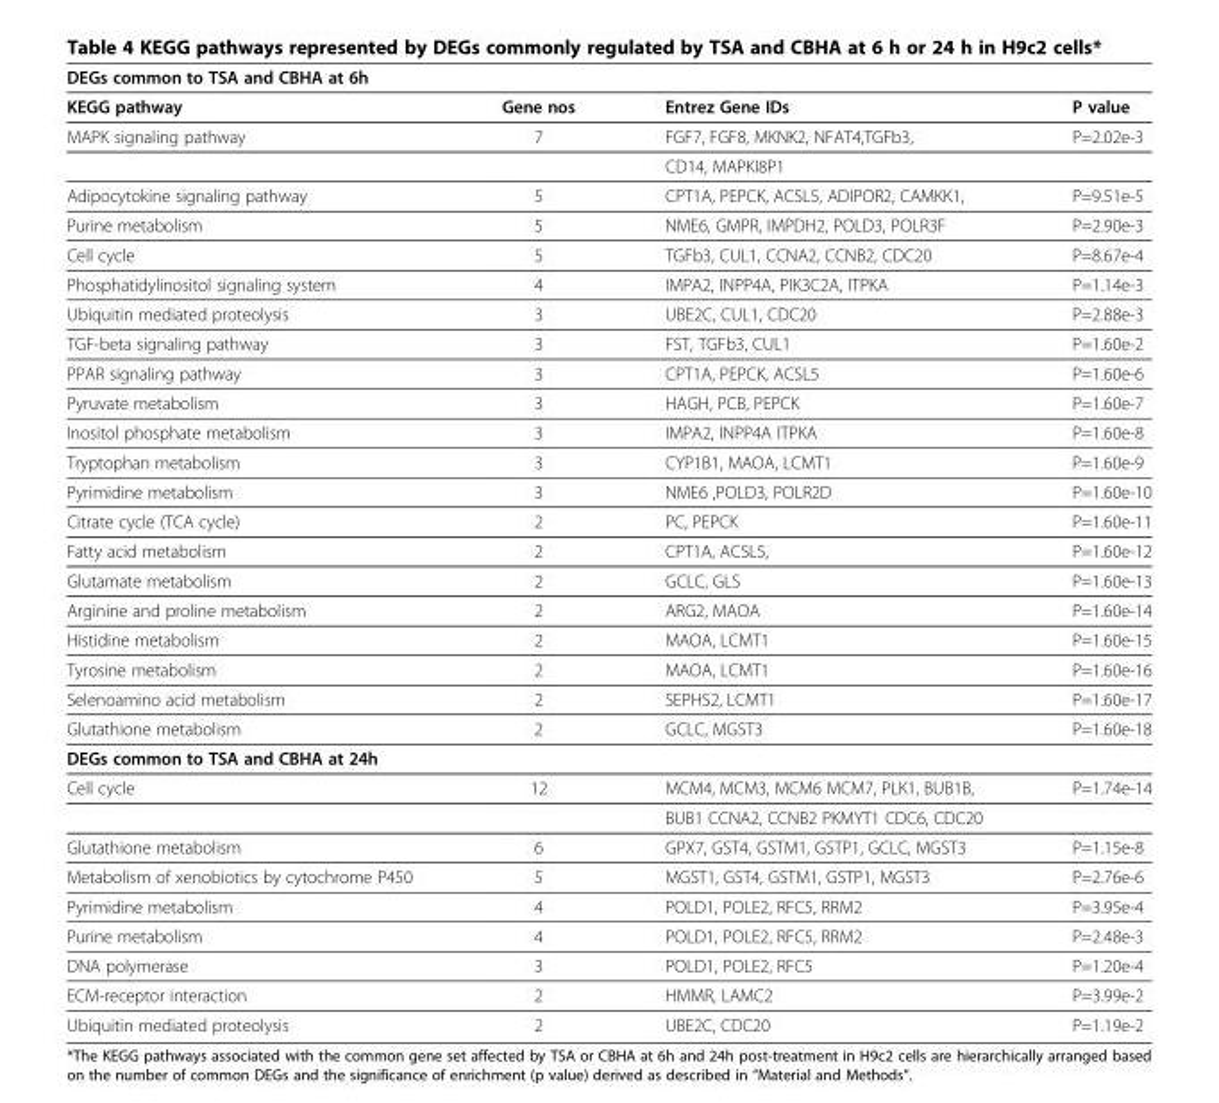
<table><thead><tr><td colspan="4">DEGs common to TSA and CBHA at 6h</td></tr><tr><td>KEGG pathway</td><td>Gene nos</td><td>Entrez Gene IDs</td><td>P value</td></tr></thead><tbody><tr><td rowspan="2">MAPK signaling pathway</td><td>7</td><td>FGF7, FGF8, MKNK2, NFAT4,TGFb3,</td><td>P=2.02e-3</td></tr><tr><td></td><td>CD14, MAPKI8P1</td><td></td></tr><tr><td>Adipocytokine signaling pathway</td><td>5</td><td>CPT1A, PEPCK, ACSL5, ADIPOR2, CAMKK1,</td><td>P=9.51e-5</td></tr><tr><td>Purine metabolism</td><td>5</td><td>NME6, GMPR, IMPDH2, POLD3, POLR3F</td><td>P=2.90e-3</td></tr><tr><td>Cell cycle</td><td>5</td><td>TGFb3, CUL1, CCNA2, CCNB2, CDC20</td><td>P=8.67e-4</td></tr><tr><td>Phosphatidylinositol signaling system</td><td>4</td><td>IMPA2, INPP4A, PIK3C2A, ITPKA</td><td>P=1.14e-3</td></tr><tr><td>Ubiquitin mediated proteolysis</td><td>3</td><td>UBE2C, CUL1, CDC20</td><td>P=2.88e-3</td></tr><tr><td>TGF-beta signaling pathway</td><td>3</td><td>FST, TGFb3, CUL1</td><td>P=1.60e-2</td></tr><tr><td>PPAR signaling pathway</td><td>3</td><td>CPT1A, PEPCK, ACSL5</td><td>P=1.60e-6</td></tr><tr><td>Pyruvate metabolism</td><td>3</td><td>HAGH, PCB, PEPCK</td><td>P=1.60e-7</td></tr><tr><td>Inositol phosphate metabolism</td><td>3</td><td>IMPA2, INPP4A ITPKA</td><td>P=1.60e-8</td></tr><tr><td>Tryptophan metabolism</td><td>3</td><td>CYP1B1, MAOA, LCMT1</td><td>P=1.60e-9</td></tr><tr><td>Pyrimidine metabolism</td><td>3</td><td>NME6 ,POLD3, POLR2D</td><td>P=1.60e-10</td></tr><tr><td>Citrate cycle (TCA cycle)</td><td>2</td><td>PC, PEPCK</td><td>P=1.60e-11</td></tr><tr><td>Fatty acid metabolism</td><td>2</td><td>CPT1A, ACSL5,</td><td>P=1.60e-12</td></tr><tr><td>Glutamate metabolism</td><td>2</td><td>GCLC, GLS</td><td>P=1.60e-13</td></tr><tr><td>Arginine and proline metabolism</td><td>2</td><td>ARG2, MAOA</td><td>P=1.60e-14</td></tr><tr><td>Histidine metabolism</td><td>2</td><td>MAOA, LCMT1</td><td>P=1.60e-15</td></tr><tr><td>Tyrosine metabolism</td><td>2</td><td>MAOA, LCMT1</td><td>P=1.60e-16</td></tr><tr><td>Selenoamino acid metabolism</td><td>2</td><td>SEPHS2, LCMT1</td><td>P=1.60e-17</td></tr><tr><td>Glutathione metabolism</td><td>2</td><td>GCLC, MGST3</td><td>P=1.60e-18</td></tr><tr><td colspan="4">DEGs common to TSA and CBHA at 24h</td></tr><tr><td rowspan="2">Cell cycle</td><td>12</td><td>MCM4, MCM3, MCM6 MCM7, PLK1, BUB1B,</td><td>P=1.74e-14</td></tr><tr><td></td><td>BUB1 CCNA2, CCNB2 PKMYT1 CDC6, CDC20</td><td></td></tr><tr><td>Glutathione metabolism</td><td>6</td><td>GPX7, GST4, GSTM1, GSTP1, GCLC, MGST3</td><td>P=1.15e-8</td></tr><tr><td>Metabolism of xenobiotics by cytochrome P450</td><td>5</td><td>MGST1, GST4, GSTM1, GSTP1, MGST3</td><td>P=2.76e-6</td></tr><tr><td>Pyrimidine metabolism</td><td>4</td><td>POLD1, POLE2, RFC5, RRM2</td><td>P=3.95e-4</td></tr><tr><td>Purine metabolism</td><td>4</td><td>POLD1, POLE2, RFC5, RRM2</td><td>P=2.48e-3</td></tr><tr><td>DNA polymerase</td><td>3</td><td>POLD1, POLE2, RFC5</td><td>P=1.20e-4</td></tr><tr><td>ECM-receptor interaction</td><td>2</td><td>HMMR, LAMC2</td><td>P=3.99e-2</td></tr><tr><td>Ubiquitin mediated proteolysis</td><td>2</td><td>UBE2C, CDC20</td><td>P=1.19e-2</td></tr></tbody></table>